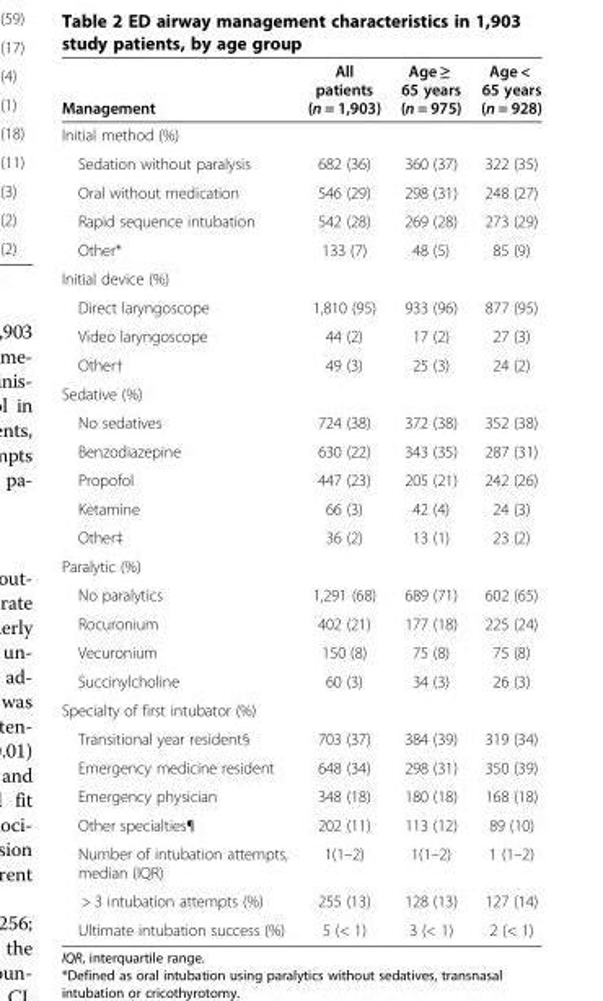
<table><thead><tr><td>Management</td><td>All patients (n = 1,903)</td><td>Age ≥ 65 years (n = 975)</td><td>Age &lt; 65 years (n = 928)</td></tr></thead><tbody><tr><td colspan="4">Initial method (%)</td></tr><tr><td>Sedation without paralysis</td><td>682 (36)</td><td>360 (37)</td><td>322 (35)</td></tr><tr><td>Oral without medication</td><td>546 (29)</td><td>298 (31)</td><td>248 (27)</td></tr><tr><td>Rapid sequence intubation</td><td>542 (28)</td><td>269 (28)</td><td>273 (29)</td></tr><tr><td>Other*</td><td>133 (7)</td><td>48 (5)</td><td>85 (9)</td></tr><tr><td colspan="4">Initial device (%)</td></tr><tr><td>Direct laryngoscope</td><td>1,810 (95)</td><td>933 (96)</td><td>877 (95)</td></tr><tr><td>Video laryngoscope</td><td>44 (2)</td><td>17 (2)</td><td>27 (3)</td></tr><tr><td>Other†</td><td>49 (3)</td><td>25 (3)</td><td>24 (2)</td></tr><tr><td colspan="4">Sedative (%)</td></tr><tr><td>No sedatives</td><td>724 (38)</td><td>372 (38)</td><td>352 (38)</td></tr><tr><td>Benzodiazepine</td><td>630 (22)</td><td>343 (35)</td><td>287 (31)</td></tr><tr><td>Propofol</td><td>447 (23)</td><td>205 (21)</td><td>242 (26)</td></tr><tr><td>Ketamine</td><td>66 (3)</td><td>42 (4)</td><td>24 (3)</td></tr><tr><td>Other‡</td><td>36 (2)</td><td>13 (1)</td><td>23 (2)</td></tr><tr><td colspan="4">Paralytic (%)</td></tr><tr><td>No paralytics</td><td>1,291 (68)</td><td>689 (71)</td><td>602 (65)</td></tr><tr><td>Rocuronium</td><td>402 (21)</td><td>177 (18)</td><td>225 (24)</td></tr><tr><td>Vecuronium</td><td>150 (8)</td><td>75 (8)</td><td>75 (8)</td></tr><tr><td>Succinylcholine</td><td>60 (3)</td><td>34 (3)</td><td>26 (3)</td></tr><tr><td colspan="4">Specialty of first intubator (%)</td></tr><tr><td>Transitional year resident§</td><td>703 (37)</td><td>384 (39)</td><td>319 (34)</td></tr><tr><td>Emergency medicine resident</td><td>648 (34)</td><td>298 (31)</td><td>350 (39)</td></tr><tr><td>Emergency physician</td><td>348 (18)</td><td>180 (18)</td><td>168 (18)</td></tr><tr><td>Other specialties¶</td><td>202 (11)</td><td>113 (12)</td><td>89 (10)</td></tr><tr><td>Number of intubation attempts, median (IQR)</td><td>1(1–2)</td><td>1(1–2)</td><td>1 (1–2)</td></tr><tr><td>&gt; 3 intubation attempts (%)</td><td>255 (13)</td><td>128 (13)</td><td>127 (14)</td></tr><tr><td>Ultimate intubation success (%)</td><td>5 (&lt; 1)</td><td>3 (&lt; 1)</td><td>2 (&lt; 1)</td></tr></tbody></table>